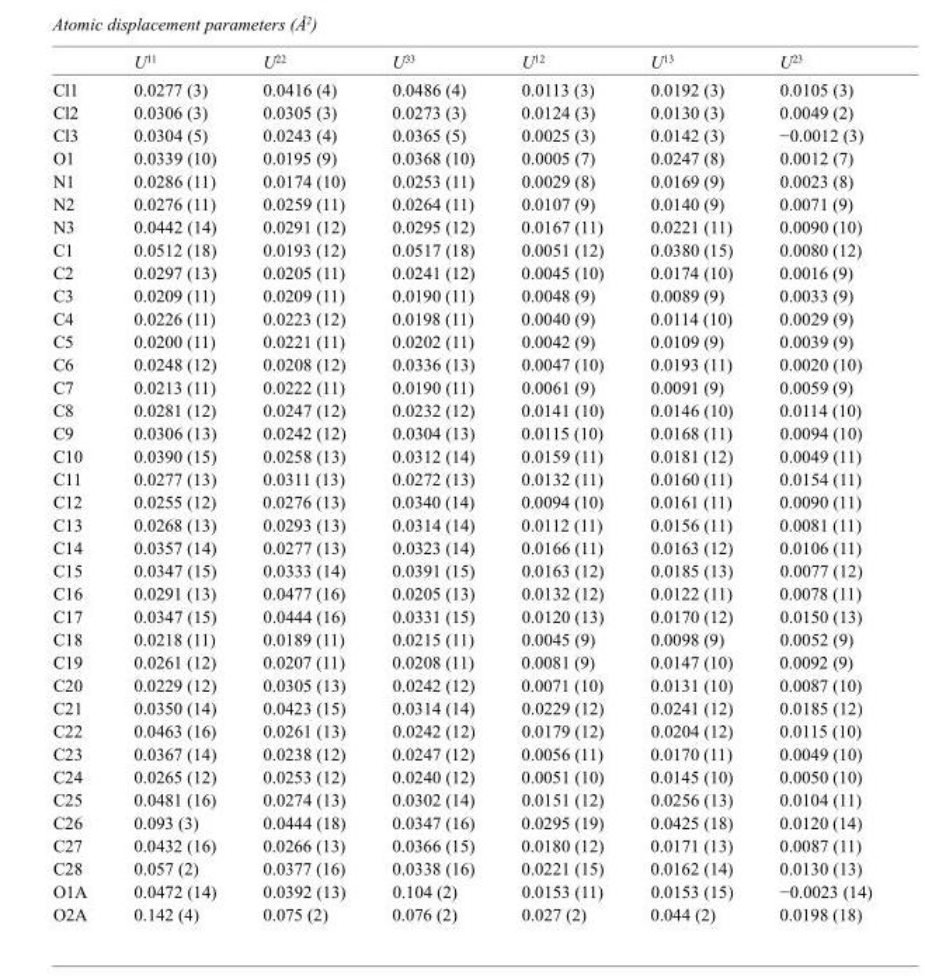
<table><thead><tr><td></td><td>U<sup>11</sup></td><td>U<sup>22</sup></td><td>U<sup>33</sup></td><td>U<sup>12</sup></td><td>U<sup>13</sup></td><td>U<sup>23</sup></td></tr></thead><tbody><tr><td>Cl1</td><td>0.0277 (3)</td><td>0.0416 (4)</td><td>0.0486 (4)</td><td>0.0113 (3)</td><td>0.0192 (3)</td><td>0.0105 (3)</td></tr><tr><td>Cl2</td><td>0.0306 (3)</td><td>0.0305 (3)</td><td>0.0273 (3)</td><td>0.0124 (3)</td><td>0.0130 (3)</td><td>0.0049 (2)</td></tr><tr><td>Cl3</td><td>0.0304 (5)</td><td>0.0243 (4)</td><td>0.0365 (5)</td><td>0.0025 (3)</td><td>0.0142 (3)</td><td>−0.0012 (3)</td></tr><tr><td>O1</td><td>0.0339 (10)</td><td>0.0195 (9)</td><td>0.0368 (10)</td><td>0.0005 (7)</td><td>0.0247 (8)</td><td>0.0012 (7)</td></tr><tr><td>N1</td><td>0.0286 (11)</td><td>0.0174 (10)</td><td>0.0253 (11)</td><td>0.0029 (8)</td><td>0.0169 (9)</td><td>0.0023 (8)</td></tr><tr><td>N2</td><td>0.0276 (11)</td><td>0.0259 (11)</td><td>0.0264 (11)</td><td>0.0107 (9)</td><td>0.0140 (9)</td><td>0.0071 (9)</td></tr><tr><td>N3</td><td>0.0442 (14)</td><td>0.0291 (12)</td><td>0.0295 (12)</td><td>0.0167 (11)</td><td>0.0221 (11)</td><td>0.0090 (10)</td></tr><tr><td>C1</td><td>0.0512 (18)</td><td>0.0193 (12)</td><td>0.0517 (18)</td><td>0.0051 (12)</td><td>0.0380 (15)</td><td>0.0080 (12)</td></tr><tr><td>C2</td><td>0.0297 (13)</td><td>0.0205 (11)</td><td>0.0241 (12)</td><td>0.0045 (10)</td><td>0.0174 (10)</td><td>0.0016 (9)</td></tr><tr><td>C3</td><td>0.0209 (11)</td><td>0.0209 (11)</td><td>0.0190 (11)</td><td>0.0048 (9)</td><td>0.0089 (9)</td><td>0.0033 (9)</td></tr><tr><td>C4</td><td>0.0226 (11)</td><td>0.0223 (12)</td><td>0.0198 (11)</td><td>0.0040 (9)</td><td>0.0114 (10)</td><td>0.0029 (9)</td></tr><tr><td>C5</td><td>0.0200 (11)</td><td>0.0221 (11)</td><td>0.0202 (11)</td><td>0.0042 (9)</td><td>0.0109 (9)</td><td>0.0039 (9)</td></tr><tr><td>C6</td><td>0.0248 (12)</td><td>0.0208 (12)</td><td>0.0336 (13)</td><td>0.0047 (10)</td><td>0.0193 (11)</td><td>0.0020 (10)</td></tr><tr><td>C7</td><td>0.0213 (11)</td><td>0.0222 (11)</td><td>0.0190 (11)</td><td>0.0061 (9)</td><td>0.0091 (9)</td><td>0.0059 (9)</td></tr><tr><td>C8</td><td>0.0281 (12)</td><td>0.0247 (12)</td><td>0.0232 (12)</td><td>0.0141 (10)</td><td>0.0146 (10)</td><td>0.0114 (10)</td></tr><tr><td>C9</td><td>0.0306 (13)</td><td>0.0242 (12)</td><td>0.0304 (13)</td><td>0.0115 (10)</td><td>0.0168 (11)</td><td>0.0094 (10)</td></tr><tr><td>C10</td><td>0.0390 (15)</td><td>0.0258 (13)</td><td>0.0312 (14)</td><td>0.0159 (11)</td><td>0.0181 (12)</td><td>0.0049 (11)</td></tr><tr><td>C11</td><td>0.0277 (13)</td><td>0.0311 (13)</td><td>0.0272 (13)</td><td>0.0132 (11)</td><td>0.0160 (11)</td><td>0.0154 (11)</td></tr><tr><td>C12</td><td>0.0255 (12)</td><td>0.0276 (13)</td><td>0.0340 (14)</td><td>0.0094 (10)</td><td>0.0161 (11)</td><td>0.0090 (11)</td></tr><tr><td>C13</td><td>0.0268 (13)</td><td>0.0293 (13)</td><td>0.0314 (14)</td><td>0.0112 (11)</td><td>0.0156 (11)</td><td>0.0081 (11)</td></tr><tr><td>C14</td><td>0.0357 (14)</td><td>0.0277 (13)</td><td>0.0323 (14)</td><td>0.0166 (11)</td><td>0.0163 (12)</td><td>0.0106 (11)</td></tr><tr><td>C15</td><td>0.0347 (15)</td><td>0.0333 (14)</td><td>0.0391 (15)</td><td>0.0163 (12)</td><td>0.0185 (13)</td><td>0.0077 (12)</td></tr><tr><td>C16</td><td>0.0291 (13)</td><td>0.0477 (16)</td><td>0.0205 (13)</td><td>0.0132 (12)</td><td>0.0122 (11)</td><td>0.0078 (11)</td></tr><tr><td>C17</td><td>0.0347 (15)</td><td>0.0444 (16)</td><td>0.0331 (15)</td><td>0.0120 (13)</td><td>0.0170 (12)</td><td>0.0150 (13)</td></tr><tr><td>C18</td><td>0.0218 (11)</td><td>0.0189 (11)</td><td>0.0215 (11)</td><td>0.0045 (9)</td><td>0.0098 (9)</td><td>0.0052 (9)</td></tr><tr><td>C19</td><td>0.0261 (12)</td><td>0.0207 (11)</td><td>0.0208 (11)</td><td>0.0081 (9)</td><td>0.0147 (10)</td><td>0.0092 (9)</td></tr><tr><td>C20</td><td>0.0229 (12)</td><td>0.0305 (13)</td><td>0.0242 (12)</td><td>0.0071 (10)</td><td>0.0131 (10)</td><td>0.0087 (10)</td></tr><tr><td>C21</td><td>0.0350 (14)</td><td>0.0423 (15)</td><td>0.0314 (14)</td><td>0.0229 (12)</td><td>0.0241 (12)</td><td>0.0185 (12)</td></tr><tr><td>C22</td><td>0.0463 (16)</td><td>0.0261 (13)</td><td>0.0242 (12)</td><td>0.0179 (12)</td><td>0.0204 (12)</td><td>0.0115 (10)</td></tr><tr><td>C23</td><td>0.0367 (14)</td><td>0.0238 (12)</td><td>0.0247 (12)</td><td>0.0056 (11)</td><td>0.0170 (11)</td><td>0.0049 (10)</td></tr><tr><td>C24</td><td>0.0265 (12)</td><td>0.0253 (12)</td><td>0.0240 (12)</td><td>0.0051 (10)</td><td>0.0145 (10)</td><td>0.0050 (10)</td></tr><tr><td>C25</td><td>0.0481 (16)</td><td>0.0274 (13)</td><td>0.0302 (14)</td><td>0.0151 (12)</td><td>0.0256 (13)</td><td>0.0104 (11)</td></tr><tr><td>C26</td><td>0.093 (3)</td><td>0.0444 (18)</td><td>0.0347 (16)</td><td>0.0295 (19)</td><td>0.0425 (18)</td><td>0.0120 (14)</td></tr><tr><td>C27</td><td>0.0432 (16)</td><td>0.0266 (13)</td><td>0.0366 (15)</td><td>0.0180 (12)</td><td>0.0171 (13)</td><td>0.0087 (11)</td></tr><tr><td>C28</td><td>0.057 (2)</td><td>0.0377 (16)</td><td>0.0338 (16)</td><td>0.0221 (15)</td><td>0.0162 (14)</td><td>0.0130 (13)</td></tr><tr><td>O1A</td><td>0.0472 (14)</td><td>0.0392 (13)</td><td>0.104 (2)</td><td>0.0153 (11)</td><td>0.0153 (15)</td><td>−0.0023 (14)</td></tr><tr><td>O2A</td><td>0.142 (4)</td><td>0.075 (2)</td><td>0.076 (2)</td><td>0.027 (2)</td><td>0.044 (2)</td><td>0.0198 (18)</td></tr></tbody></table>